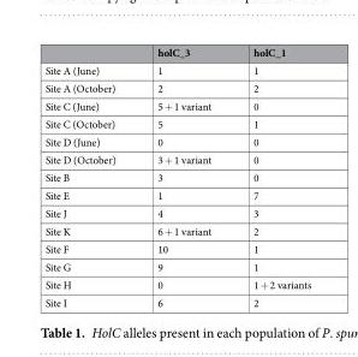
<table><thead><tr><td></td><td>holC_3</td><td>holC_1</td></tr></thead><tbody><tr><td>Site A (June)</td><td>1</td><td>1</td></tr><tr><td>Site A (October)</td><td>2</td><td>2</td></tr><tr><td>Site C (June)</td><td>5 + 1 variant</td><td>0</td></tr><tr><td>Site C (October)</td><td>5</td><td>1</td></tr><tr><td>Site D (June)</td><td>0</td><td>0</td></tr><tr><td>Site D (October)</td><td>3 + 1 variant</td><td>0</td></tr><tr><td>Site B</td><td>3</td><td>0</td></tr><tr><td>Site E</td><td>1</td><td>7</td></tr><tr><td>Site J</td><td>4</td><td>3</td></tr><tr><td>Site K</td><td>6 + 1 variant</td><td>2</td></tr><tr><td>Site F</td><td>10</td><td>1</td></tr><tr><td>Site G</td><td>9</td><td>1</td></tr><tr><td>Site H</td><td>0</td><td>1 + 2 variants</td></tr><tr><td>Site I</td><td>6</td><td>2</td></tr></tbody></table>